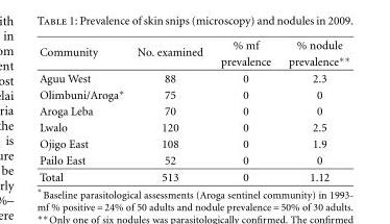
<table><thead><tr><td rowspan="2">Community</td><td rowspan="2">No. examined</td><td rowspan="2">% mf prevalence</td><td rowspan="2">% nodule prevalence∗∗</td></tr><tr></tr></thead><tbody><tr><td>Aguu West</td><td>88</td><td>0</td><td>2.3</td></tr><tr><td>Olimbuni/Aroga∗</td><td>75</td><td>0</td><td>0</td></tr><tr><td>Aroga Leba</td><td>70</td><td>0</td><td>0</td></tr><tr><td>Lwalo</td><td>120</td><td>0</td><td>2.5</td></tr><tr><td>Ojigo East</td><td>108</td><td>0</td><td>1.9</td></tr><tr><td>Pailo East</td><td>52</td><td>0</td><td>0</td></tr><tr><td>Total</td><td>513</td><td>0</td><td>1.12</td></tr></tbody></table>